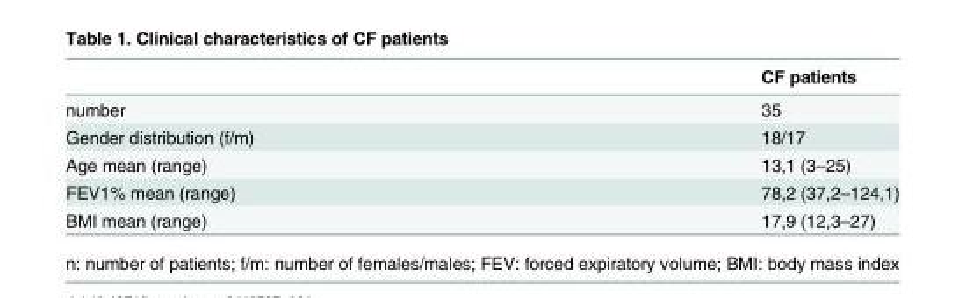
<table><thead><tr><td></td><td>CF patients</td></tr></thead><tbody><tr><td>number</td><td>35</td></tr><tr><td>Gender distribution (f/m)</td><td>18/17</td></tr><tr><td>Age mean (range)</td><td>13,1 (3–25)</td></tr><tr><td>FEV1% mean (range)</td><td>78,2 (37,2–124,1)</td></tr><tr><td>BMI mean (range)</td><td>17,9 (12,3–27)</td></tr></tbody></table>